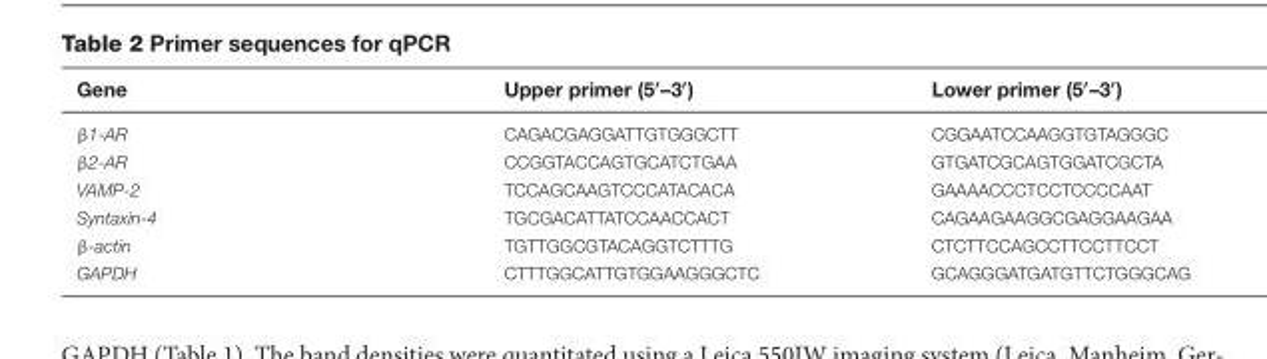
<table><thead><tr><td>Gene</td><td>Upper primer (5′–3′)</td><td>Lower primer (5′–3′)</td></tr></thead><tbody><tr><td>β1-AR</td><td>CAGACGAGGATTGTGGGCTT</td><td>CGGAATCCAAGGTGTAGGGC</td></tr><tr><td>β2-AR</td><td>CCGGTACCAGTGCATCTGAA</td><td>GTGATCGCAGTGGATCGCTA</td></tr><tr><td>VAMP-2</td><td>TCCAGCAAGTCCCATACACA</td><td>GAAAACCCTCCTCCCCAAT</td></tr><tr><td>Syntaxin-4</td><td>TGCGACATTATCCAACCACT</td><td>CAGAAGAAGGCGAGGAAGAA</td></tr><tr><td>β-actin</td><td>TGTTGGCGTACAGGTCTTTG</td><td>CTCTTCCAGCCTTCCTTCCT</td></tr><tr><td>GAPDH</td><td>CTTTGGCATTGTGGAAGGGCTC</td><td>GCAGGGATGATGTTCTGGGCAG</td></tr></tbody></table>